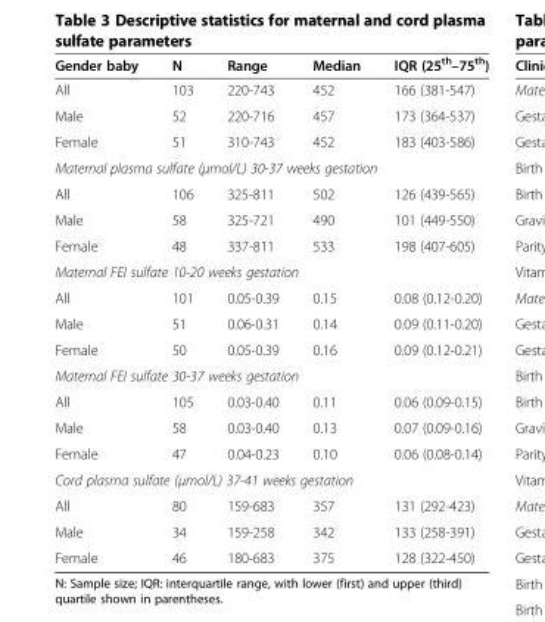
<table><thead><tr><td>Gender baby</td><td>N</td><td>Range</td><td>Median</td><td>IQR (25<sup>th</sup>–75<sup>th</sup>)</td></tr></thead><tbody><tr><td>All</td><td>103</td><td>220-743</td><td>452</td><td>166 (381-547)</td></tr><tr><td>Male</td><td>52</td><td>220-716</td><td>457</td><td>173 (364-537)</td></tr><tr><td>Female</td><td>51</td><td>310-743</td><td>452</td><td>183 (403-586)</td></tr><tr><td colspan="5">Maternal plasma sulfate (μmol/L) 30-37 weeks gestation</td></tr><tr><td>All</td><td>106</td><td>325-811</td><td>502</td><td>126 (439-565)</td></tr><tr><td>Male</td><td>58</td><td>325-721</td><td>490</td><td>101 (449-550)</td></tr><tr><td>Female</td><td>48</td><td>337-811</td><td>533</td><td>198 (407-605)</td></tr><tr><td colspan="5">Maternal FEI sulfate 10-20 weeks gestation</td></tr><tr><td>All</td><td>101</td><td>0.05-0.39</td><td>0.15</td><td>0.08 (0.12-0.20)</td></tr><tr><td>Male</td><td>51</td><td>0.06-0.31</td><td>0.14</td><td>0.09 (0.11-0.20)</td></tr><tr><td>Female</td><td>50</td><td>0.05-0.39</td><td>0.16</td><td>0.09 (0.12-0.21)</td></tr><tr><td colspan="5">Maternal FEI sulfate 30-37 weeks gestation</td></tr><tr><td>All</td><td>105</td><td>0.03-0.40</td><td>0.11</td><td>0.06 (0.09-0.15)</td></tr><tr><td>Male</td><td>58</td><td>0.03-0.40</td><td>0.13</td><td>0.07 (0.09-0.16)</td></tr><tr><td>Female</td><td>47</td><td>0.04-0.23</td><td>0.10</td><td>0.06 (0.08-0.14)</td></tr><tr><td colspan="5">Cord plasma sulfate (μmol/L) 37-41 weeks gestation</td></tr><tr><td>All</td><td>80</td><td>159-683</td><td>357</td><td>131 (292-423)</td></tr><tr><td>Male</td><td>34</td><td>159-258</td><td>342</td><td>133 (258-391)</td></tr><tr><td>Female</td><td>46</td><td>180-683</td><td>375</td><td>128 (322-450)</td></tr></tbody></table>